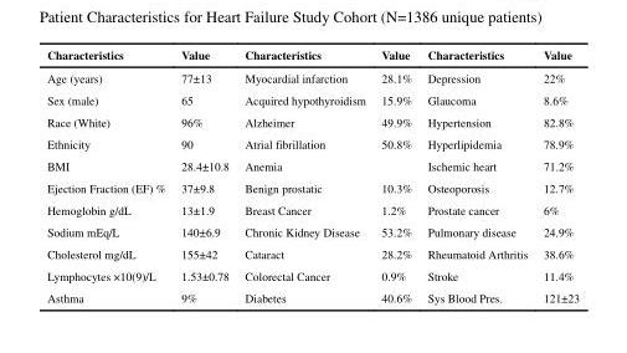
<table><thead><tr><td>Characteristics</td><td>Value</td><td>Characteristics</td><td>Value</td><td>Characteristics</td><td>Value</td></tr></thead><tbody><tr><td>Age (years)</td><td>77±13</td><td>Myocardial infarction</td><td>28.1%</td><td>Depression</td><td>22%</td></tr><tr><td>Sex (male)</td><td>65</td><td>Acquired hypothyroidism</td><td>15.9%</td><td>Glaucoma</td><td>8.6%</td></tr><tr><td>Race (White)</td><td>96%</td><td>Alzheimer</td><td>49.9%</td><td>Hypertension</td><td>82.8%</td></tr><tr><td>Ethnicity</td><td>90</td><td>Atrial fibrillation</td><td>50.8%</td><td>Hyperlipidemia</td><td>78.9%</td></tr><tr><td>BMI</td><td>28.4±10.8</td><td>Anemia</td><td></td><td>Ischemic heart</td><td>71.2%</td></tr><tr><td>Ejection Fraction (EF) %</td><td>37±9.8</td><td>Benign prostatic</td><td>10.3%</td><td>Osteoporosis</td><td>12.7%</td></tr><tr><td>Hemoglobin g/dL</td><td>13±1.9</td><td>Breast Cancer</td><td>1.2%</td><td>Prostate cancer</td><td>6%</td></tr><tr><td>Sodium mEq/L</td><td>140±6.9</td><td>Chronic Kidney Disease</td><td>53.2%</td><td>Pulmonary disease</td><td>24.9%</td></tr><tr><td>Cholesterol mg/dL</td><td>155±42</td><td>Cataract</td><td>28.2%</td><td>Rheumatoid Arthritis</td><td>38.6%</td></tr><tr><td>Lymphocytes ×10(9)/L</td><td>1.53±0.78</td><td>Colorectal Cancer</td><td>0.9%</td><td>Stroke</td><td>11.4%</td></tr><tr><td>Asthma</td><td>9%</td><td>Diabetes</td><td>40.6%</td><td>Sys Blood Pres.</td><td>121±23</td></tr></tbody></table>